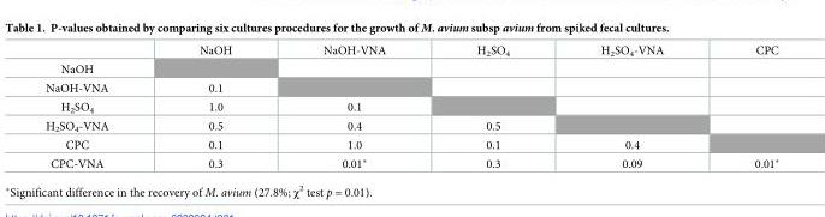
<table><thead><tr><td></td><td>NaOH</td><td>NaOH-VNA</td><td>H<sub>2</sub>SO<sub>4</sub></td><td>H<sub>2</sub>SO<sub>4</sub>-VNA</td><td>CPC</td></tr></thead><tbody><tr><td colspan="6">NaOH</td></tr><tr><td>NaOH-VNA</td><td>0.1</td><td></td><td></td><td></td><td></td></tr><tr><td>H<sub>2</sub>SO<sub>4</sub></td><td>1.0</td><td>0.1</td><td></td><td></td><td></td></tr><tr><td>H<sub>2</sub>SO<sub>4</sub>-VNA</td><td>0.5</td><td>0.4</td><td>0.5</td><td></td><td></td></tr><tr><td>CPC</td><td>0.1</td><td>1.0</td><td>0.1</td><td>0.4</td><td></td></tr><tr><td>CPC-VNA</td><td>0.3</td><td>0.01*</td><td>0.3</td><td>0.09</td><td>0.01*</td></tr></tbody></table>